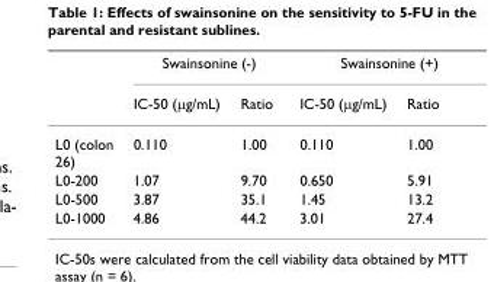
<table><thead><tr><td rowspan="2"></td><td colspan="2">Swainsonine (-)</td><td colspan="2">Swainsonine (+)</td></tr><tr><td>IC-50 (μg/mL)</td><td>Ratio</td><td>IC-50 (μg/mL)</td><td>Ratio</td></tr></thead><tbody><tr><td>L0 (colon 26)</td><td>0.110</td><td>1.00</td><td>0.110</td><td>1.00</td></tr><tr><td>L0-200</td><td>1.07</td><td>9.70</td><td>0.650</td><td>5.91</td></tr><tr><td>L0-500</td><td>3.87</td><td>35.1</td><td>1.45</td><td>13.2</td></tr><tr><td>L0-1000</td><td>4.86</td><td>44.2</td><td>3.01</td><td>27.4</td></tr></tbody></table>